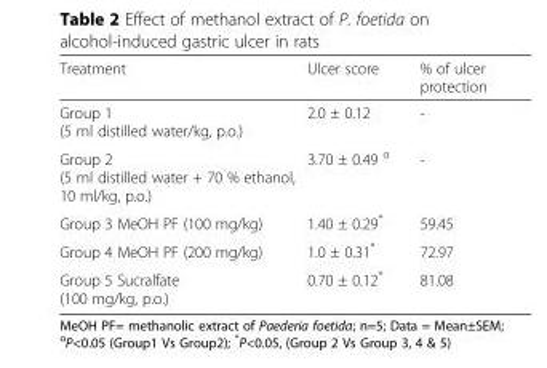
<table><thead><tr><td>Treatment</td><td>Ulcer score</td><td>% of ulcer protection</td></tr></thead><tbody><tr><td>Group 1 (5 ml distilled water/kg, p.o.)</td><td>2.0 ± 0.12</td><td>-</td></tr><tr><td>Group 2 (5 ml distilled water + 70 % ethanol, 10 ml/kg, p.o.)</td><td>3.70 ± 0.49 <sup>α</sup></td><td>-</td></tr><tr><td>Group 3 MeOH PF (100 mg/kg)</td><td>1.40 ± 0.29*</td><td>59.45</td></tr><tr><td>Group 4 MeOH PF (200 mg/kg)</td><td>1.0 ± 0.31*</td><td>72.97</td></tr><tr><td>Group 5 Sucralfate (100 mg/kg, p.o.)</td><td>0.70 ± 0.12*</td><td>81.08</td></tr></tbody></table>